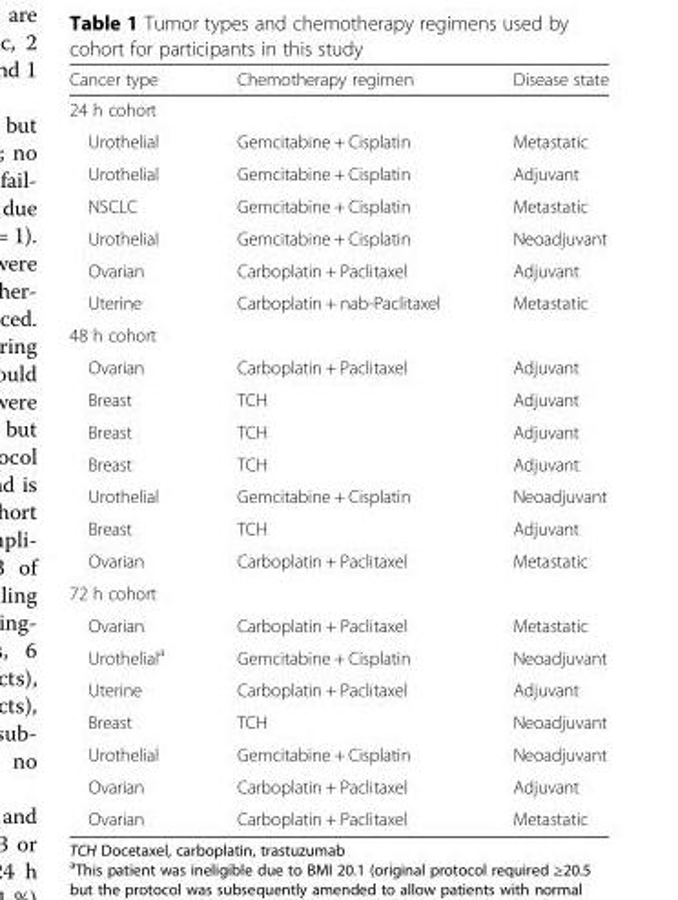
<table><thead><tr><td>Cancer type</td><td>Chemotherapy regimen</td><td>Disease state</td></tr></thead><tbody><tr><td colspan="3">24 h cohort</td></tr><tr><td>Urothelial</td><td>Gemcitabine + Cisplatin</td><td>Metastatic</td></tr><tr><td>Urothelial</td><td>Gemcitabine + Cisplatin</td><td>Adjuvant</td></tr><tr><td>NSCLC</td><td>Gemcitabine + Cisplatin</td><td>Metastatic</td></tr><tr><td>Urothelial</td><td>Gemcitabine + Cisplatin</td><td>Neoadjuvant</td></tr><tr><td>Ovarian</td><td>Carboplatin + Paclitaxel</td><td>Adjuvant</td></tr><tr><td>Uterine</td><td>Carboplatin + nab-Paclitaxel</td><td>Metastatic</td></tr><tr><td colspan="3">48 h cohort</td></tr><tr><td>Ovarian</td><td>Carboplatin + Paclitaxel</td><td>Adjuvant</td></tr><tr><td>Breast</td><td>TCH</td><td>Adjuvant</td></tr><tr><td>Breast</td><td>TCH</td><td>Adjuvant</td></tr><tr><td>Breast</td><td>TCH</td><td>Adjuvant</td></tr><tr><td>Urothelial</td><td>Gemcitabine + Cisplatin</td><td>Neoadjuvant</td></tr><tr><td>Breast</td><td>TCH</td><td>Adjuvant</td></tr><tr><td>Ovarian</td><td>Carboplatin + Paclitaxel</td><td>Metastatic</td></tr><tr><td colspan="3">72 h cohort</td></tr><tr><td>Ovarian</td><td>Carboplatin + Paclitaxel</td><td>Metastatic</td></tr><tr><td>Urothelial<sup>a</sup></td><td>Gemcitabine + Cisplatin</td><td>Neoadjuvant</td></tr><tr><td>Uterine</td><td>Carboplatin + Paclitaxel</td><td>Adjuvant</td></tr><tr><td>Breast</td><td>TCH</td><td>Neoadjuvant</td></tr><tr><td>Urothelial</td><td>Gemcitabine + Cisplatin</td><td>Neoadjuvant</td></tr><tr><td>Ovarian</td><td>Carboplatin + Paclitaxel</td><td>Adjuvant</td></tr><tr><td>Ovarian</td><td>Carboplatin + Paclitaxel</td><td>Metastatic</td></tr></tbody></table>